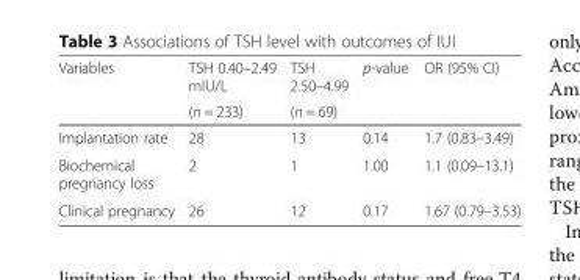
<table><thead><tr><td rowspan="2">Variables</td><td rowspan="2">TSH 0.40–2.49 mIU/L (n = 233)</td><td rowspan="2">TSH 2.50–4.99 (n = 69)</td><td rowspan="2">p-value</td><td rowspan="2">OR (95% CI)</td></tr><tr></tr></thead><tbody><tr><td>Implantation rate</td><td>28</td><td>13</td><td>0.14</td><td>1.7 (0.83–3.49)</td></tr><tr><td>Biochemical pregnancy loss</td><td>2</td><td>1</td><td>1.00</td><td>1.1 (0.09–13.1)</td></tr><tr><td>Clinical pregnancy</td><td>26</td><td>12</td><td>0.17</td><td>1.67 (0.79–3.53)</td></tr></tbody></table>